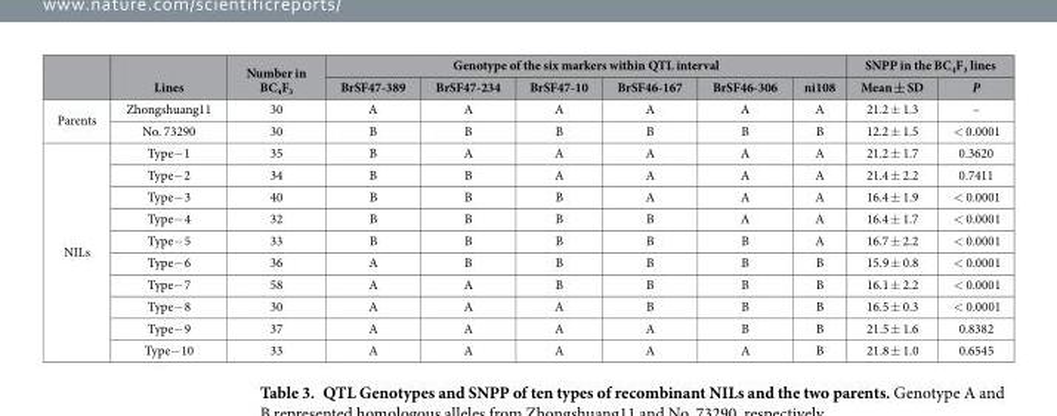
<table><thead><tr><td rowspan="2"></td><td rowspan="2">Lines</td><td rowspan="2">Number in BC<sub>4</sub>F<sub>3</sub></td><td colspan="6">Genotype of the six markers within QTL interval</td><td colspan="2">SNPP in the BC<sub>4</sub>F<sub>3</sub> lines</td></tr><tr><td>BrSF47-389</td><td>BrSF47-234</td><td>BrSF47-10</td><td>BrSF46-167</td><td>BrSF46-306</td><td>ni108</td><td>Mean ± SD</td><td>P</td></tr></thead><tbody><tr><td rowspan="2">Parents</td><td>Zhongshuang11</td><td>30</td><td>A</td><td>A</td><td>A</td><td>A</td><td>A</td><td>A</td><td>21.2 ± 1.3</td><td>–</td></tr><tr><td>No. 73290</td><td>30</td><td>B</td><td>B</td><td>B</td><td>B</td><td>B</td><td>B</td><td>12.2 ± 1.5</td><td>&lt; 0.0001</td></tr><tr><td rowspan="10">NILs</td><td>Type− 1</td><td>35</td><td>B</td><td>A</td><td>A</td><td>A</td><td>A</td><td>A</td><td>21.2 ± 1.7</td><td>0.3620</td></tr><tr><td>Type− 2</td><td>34</td><td>B</td><td>B</td><td>A</td><td>A</td><td>A</td><td>A</td><td>21.4 ± 2.2</td><td>0.7411</td></tr><tr><td>Type− 3</td><td>40</td><td>B</td><td>B</td><td>B</td><td>A</td><td>A</td><td>A</td><td>16.4 ± 1.9</td><td>&lt; 0.0001</td></tr><tr><td>Type− 4</td><td>32</td><td>B</td><td>B</td><td>B</td><td>B</td><td>A</td><td>A</td><td>16.4 ± 1.7</td><td>&lt; 0.0001</td></tr><tr><td>Type− 5</td><td>33</td><td>B</td><td>B</td><td>B</td><td>B</td><td>B</td><td>A</td><td>16.7 ± 2.2</td><td>&lt; 0.0001</td></tr><tr><td>Type− 6</td><td>36</td><td>A</td><td>B</td><td>B</td><td>B</td><td>B</td><td>B</td><td>15.9 ± 0.8</td><td>&lt; 0.0001</td></tr><tr><td>Type− 7</td><td>58</td><td>A</td><td>A</td><td>B</td><td>B</td><td>B</td><td>B</td><td>16.1 ± 2.2</td><td>&lt; 0.0001</td></tr><tr><td>Type− 8</td><td>30</td><td>A</td><td>A</td><td>A</td><td>B</td><td>B</td><td>B</td><td>16.5 ± 0.3</td><td>&lt; 0.0001</td></tr><tr><td>Type− 9</td><td>37</td><td>A</td><td>A</td><td>A</td><td>A</td><td>B</td><td>B</td><td>21.5 ± 1.6</td><td>0.8382</td></tr><tr><td>Type− 10</td><td>33</td><td>A</td><td>A</td><td>A</td><td>A</td><td>A</td><td>B</td><td>21.8 ± 1.0</td><td>0.6545</td></tr></tbody></table>